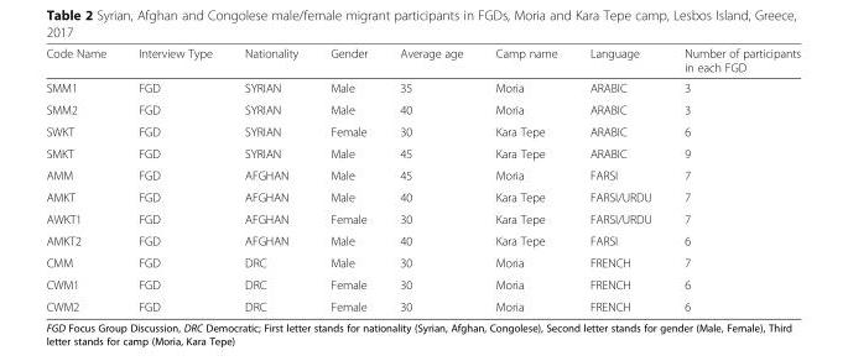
<table><thead><tr><td>Code Name</td><td>Interview Type</td><td>Nationality</td><td>Gender</td><td>Average age</td><td>Camp name</td><td>Language</td><td>Number of participants in each FGD</td></tr></thead><tbody><tr><td>SMM1</td><td>FGD</td><td>SYRIAN</td><td>Male</td><td>35</td><td>Moria</td><td>ARABIC</td><td>3</td></tr><tr><td>SMM2</td><td>FGD</td><td>SYRIAN</td><td>Male</td><td>40</td><td>Moria</td><td>ARABIC</td><td>3</td></tr><tr><td>SWKT</td><td>FGD</td><td>SYRIAN</td><td>Female</td><td>30</td><td>Kara Tepe</td><td>ARABIC</td><td>6</td></tr><tr><td>SMKT</td><td>FGD</td><td>SYRIAN</td><td>Male</td><td>45</td><td>Kara Tepe</td><td>ARABIC</td><td>9</td></tr><tr><td>AMM</td><td>FGD</td><td>AFGHAN</td><td>Male</td><td>45</td><td>Moria</td><td>FARSI</td><td>7</td></tr><tr><td>AMKT</td><td>FGD</td><td>AFGHAN</td><td>Male</td><td>40</td><td>Kara Tepe</td><td>FARSI/URDU</td><td>7</td></tr><tr><td>AWKT1</td><td>FGD</td><td>AFGHAN</td><td>Female</td><td>30</td><td>Kara Tepe</td><td>FARSI/URDU</td><td>7</td></tr><tr><td>AMKT2</td><td>FGD</td><td>AFGHAN</td><td>Male</td><td>40</td><td>Kara Tepe</td><td>FARSI</td><td>6</td></tr><tr><td>CMM</td><td>FGD</td><td>DRC</td><td>Male</td><td>30</td><td>Moria</td><td>FRENCH</td><td>7</td></tr><tr><td>CWM1</td><td>FGD</td><td>DRC</td><td>Female</td><td>30</td><td>Moria</td><td>FRENCH</td><td>6</td></tr><tr><td>CWM2</td><td>FGD</td><td>DRC</td><td>Female</td><td>30</td><td>Moria</td><td>FRENCH</td><td>6</td></tr></tbody></table>